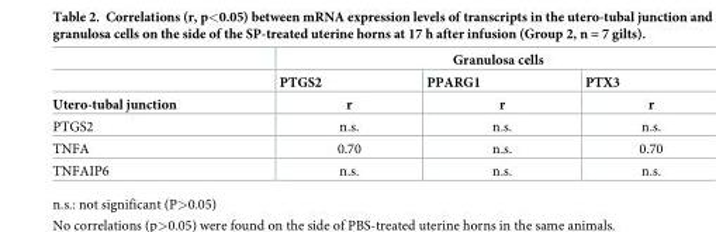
<table><thead><tr><td rowspan="3">Utero-tubal junction</td><td colspan="3">Granulosa cells</td></tr><tr><td rowspan="2">PTGS2 r</td><td rowspan="2">PPARG1 r</td><td rowspan="2">PTX3 r</td></tr><tr></tr></thead><tbody><tr><td>PTGS2</td><td>n.s.</td><td>n.s.</td><td>n.s.</td></tr><tr><td>TNFA</td><td>0.70</td><td>n.s.</td><td>0.70</td></tr><tr><td>TNFAIP6</td><td>n.s.</td><td>n.s.</td><td>n.s.</td></tr></tbody></table>